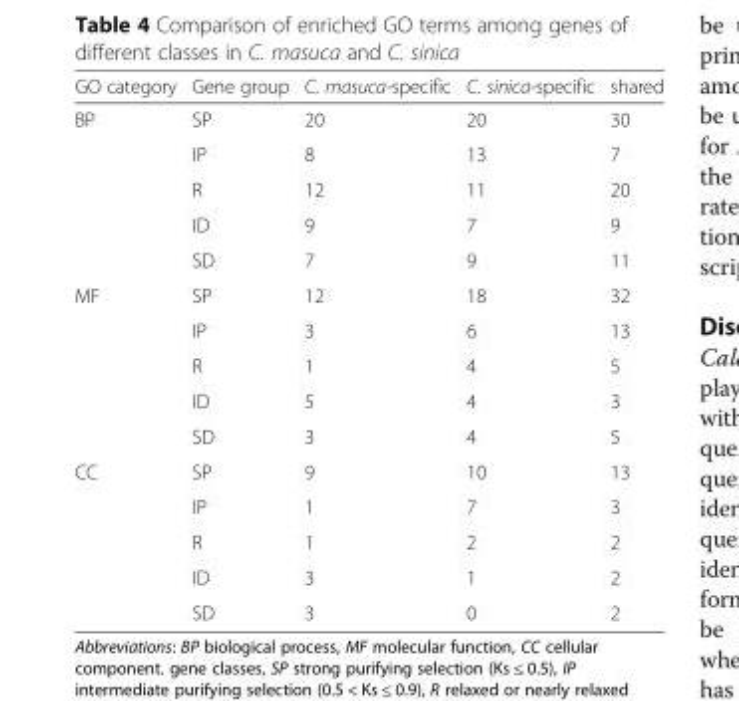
<table><thead><tr><td>GO category</td><td>Gene group</td><td>C. masuca-specific</td><td>C. sinica-specific</td><td>shared</td></tr></thead><tbody><tr><td rowspan="5">BP</td><td>SP</td><td>20</td><td>20</td><td>30</td></tr><tr><td>IP</td><td>8</td><td>13</td><td>7</td></tr><tr><td>R</td><td>12</td><td>11</td><td>20</td></tr><tr><td>ID</td><td>9</td><td>7</td><td>9</td></tr><tr><td>SD</td><td>7</td><td>9</td><td>11</td></tr><tr><td rowspan="5">MF</td><td>SP</td><td>12</td><td>18</td><td>32</td></tr><tr><td>IP</td><td>3</td><td>6</td><td>13</td></tr><tr><td>R</td><td>1</td><td>4</td><td>5</td></tr><tr><td>ID</td><td>5</td><td>4</td><td>3</td></tr><tr><td>SD</td><td>3</td><td>4</td><td>5</td></tr><tr><td rowspan="5">CC</td><td>SP</td><td>9</td><td>10</td><td>13</td></tr><tr><td>IP</td><td>1</td><td>7</td><td>3</td></tr><tr><td>R</td><td>1</td><td>2</td><td>2</td></tr><tr><td>ID</td><td>3</td><td>1</td><td>2</td></tr><tr><td>SD</td><td>3</td><td>0</td><td>2</td></tr></tbody></table>